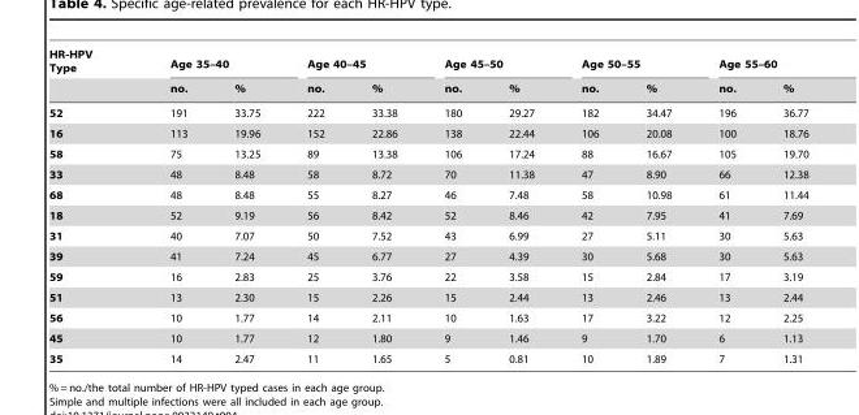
<table><thead><tr><td rowspan="2">HR-HPV Type</td><td colspan="2">Age 35–40</td><td colspan="2">Age 40–45</td><td colspan="2">Age 45–50</td><td colspan="2">Age 50–55</td><td colspan="2">Age 55–60</td></tr><tr><td>no.</td><td>%</td><td>no.</td><td>%</td><td>no.</td><td>%</td><td>no.</td><td>%</td><td>no.</td><td>%</td></tr></thead><tbody><tr><td>52</td><td>191</td><td>33.75</td><td>222</td><td>33.38</td><td>180</td><td>29.27</td><td>182</td><td>34.47</td><td>196</td><td>36.77</td></tr><tr><td>16</td><td>113</td><td>19.96</td><td>152</td><td>22.86</td><td>138</td><td>22.44</td><td>106</td><td>20.08</td><td>100</td><td>18.76</td></tr><tr><td>58</td><td>75</td><td>13.25</td><td>89</td><td>13.38</td><td>106</td><td>17.24</td><td>88</td><td>16.67</td><td>105</td><td>19.70</td></tr><tr><td>33</td><td>48</td><td>8.48</td><td>58</td><td>8.72</td><td>70</td><td>11.38</td><td>47</td><td>8.90</td><td>66</td><td>12.38</td></tr><tr><td>68</td><td>48</td><td>8.48</td><td>55</td><td>8.27</td><td>46</td><td>7.48</td><td>58</td><td>10.98</td><td>61</td><td>11.44</td></tr><tr><td>18</td><td>52</td><td>9.19</td><td>56</td><td>8.42</td><td>52</td><td>8.46</td><td>42</td><td>7.95</td><td>41</td><td>7.69</td></tr><tr><td>31</td><td>40</td><td>7.07</td><td>50</td><td>7.52</td><td>43</td><td>6.99</td><td>27</td><td>5.11</td><td>30</td><td>5.63</td></tr><tr><td>39</td><td>41</td><td>7.24</td><td>45</td><td>6.77</td><td>27</td><td>4.39</td><td>30</td><td>5.68</td><td>30</td><td>5.63</td></tr><tr><td>59</td><td>16</td><td>2.83</td><td>25</td><td>3.76</td><td>22</td><td>3.58</td><td>15</td><td>2.84</td><td>17</td><td>3.19</td></tr><tr><td>51</td><td>13</td><td>2.30</td><td>15</td><td>2.26</td><td>15</td><td>2.44</td><td>13</td><td>2.46</td><td>13</td><td>2.44</td></tr><tr><td>56</td><td>10</td><td>1.77</td><td>14</td><td>2.11</td><td>10</td><td>1.63</td><td>17</td><td>3.22</td><td>12</td><td>2.25</td></tr><tr><td>45</td><td>10</td><td>1.77</td><td>12</td><td>1.80</td><td>9</td><td>1.46</td><td>9</td><td>1.70</td><td>6</td><td>1.13</td></tr><tr><td>35</td><td>14</td><td>2.47</td><td>11</td><td>1.65</td><td>5</td><td>0.81</td><td>10</td><td>1.89</td><td>7</td><td>1.31</td></tr></tbody></table>